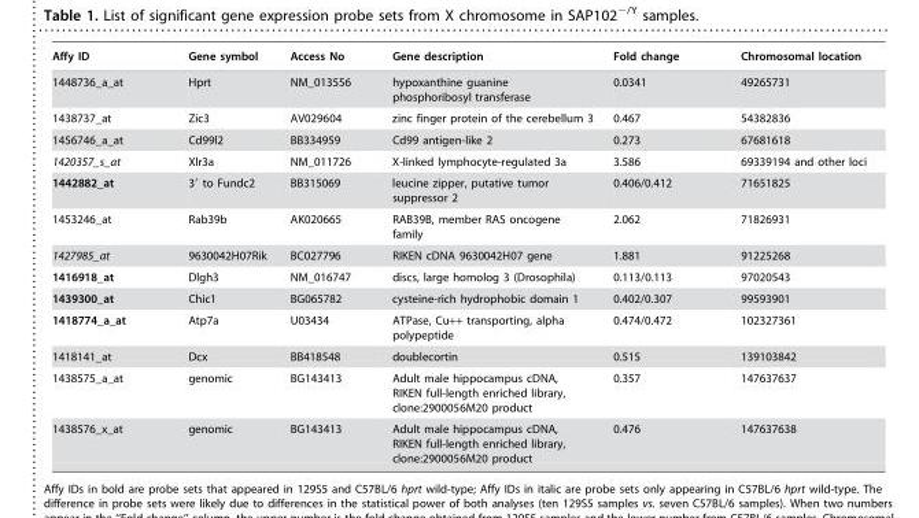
<table><thead><tr><td>Affy ID</td><td>Gene symbol</td><td>Access No</td><td>Gene description</td><td>Fold change</td><td>Chromosomal location</td></tr></thead><tbody><tr><td>1448736_a_at</td><td>Hprt</td><td>NM_013556</td><td>hypoxanthine guanine phosphoribosyl transferase</td><td>0.0341</td><td>49265731</td></tr><tr><td>1438737_at</td><td>Zic3</td><td>AV029604</td><td>zinc finger protein of the cerebellum 3</td><td>0.467</td><td>54382836</td></tr><tr><td>1456746_a_at</td><td>Cd99l2</td><td>BB334959</td><td>Cd99 antigen-like 2</td><td>0.273</td><td>67681618</td></tr><tr><td>1420357_s_at</td><td>Xlr3a</td><td>NM_011726</td><td>X-linked lymphocyte-regulated 3a</td><td>3.586</td><td>69339194 and other loci</td></tr><tr><td>1442882_at</td><td>3′ to Fundc2</td><td>BB315069</td><td>leucine zipper, putative tumor suppressor 2</td><td>0.406/0.412</td><td>71651825</td></tr><tr><td>1453246_at</td><td>Rab39b</td><td>AK020665</td><td>RAB39B, member RAS oncogene family</td><td>2.062</td><td>71826931</td></tr><tr><td>1427985_at</td><td>9630042H07Rik</td><td>BC027796</td><td>RIKEN cDNA 9630042H07 gene</td><td>1.881</td><td>91225268</td></tr><tr><td>1416918_at</td><td>Dlgh3</td><td>NM_016747</td><td>discs, large homolog 3 (Drosophila)</td><td>0.113/0.113</td><td>97020543</td></tr><tr><td>1439300_at</td><td>Chic1</td><td>BG065782</td><td>cysteine-rich hydrophobic domain 1</td><td>0.402/0.307</td><td>99593901</td></tr><tr><td>1418774_a_at</td><td>Atp7a</td><td>U03434</td><td>ATPase, Cu++ transporting, alpha polypeptide</td><td>0.474/0.472</td><td>102327361</td></tr><tr><td>1418141_at</td><td>Dcx</td><td>BB418548</td><td>doublecortin</td><td>0.515</td><td>139103842</td></tr><tr><td>1438575_a_at</td><td>genomic</td><td>BG143413</td><td>Adult male hippocampus cDNA, RIKEN full-length enriched library, clone:2900056M20 product</td><td>0.357</td><td>147637637</td></tr><tr><td>1438576_x_at</td><td>genomic</td><td>BG143413</td><td>Adult male hippocampus cDNA, RIKEN full-length enriched library, clone:2900056M20 product</td><td>0.476</td><td>147637638</td></tr></tbody></table>